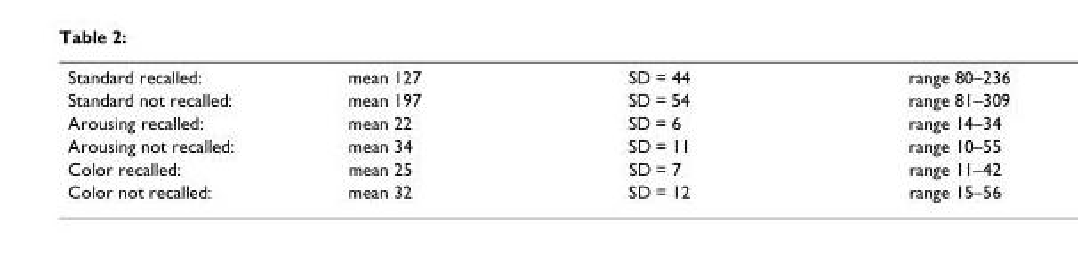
<table><tbody><tr><td>Standard recalled:</td><td>mean 127</td><td>SD = 44</td><td>range 80–236</td></tr><tr><td>Standard not recalled:</td><td>mean 197</td><td>SD = 54</td><td>range 81–309</td></tr><tr><td>Arousing recalled:</td><td>mean 22</td><td>SD = 6</td><td>range 14–34</td></tr><tr><td>Arousing not recalled:</td><td>mean 34</td><td>SD = 11</td><td>range 10–55</td></tr><tr><td>Color recalled:</td><td>mean 25</td><td>SD = 7</td><td>range 11–42</td></tr><tr><td>Color not recalled:</td><td>mean 32</td><td>SD = 12</td><td>range 15–56</td></tr></tbody></table>